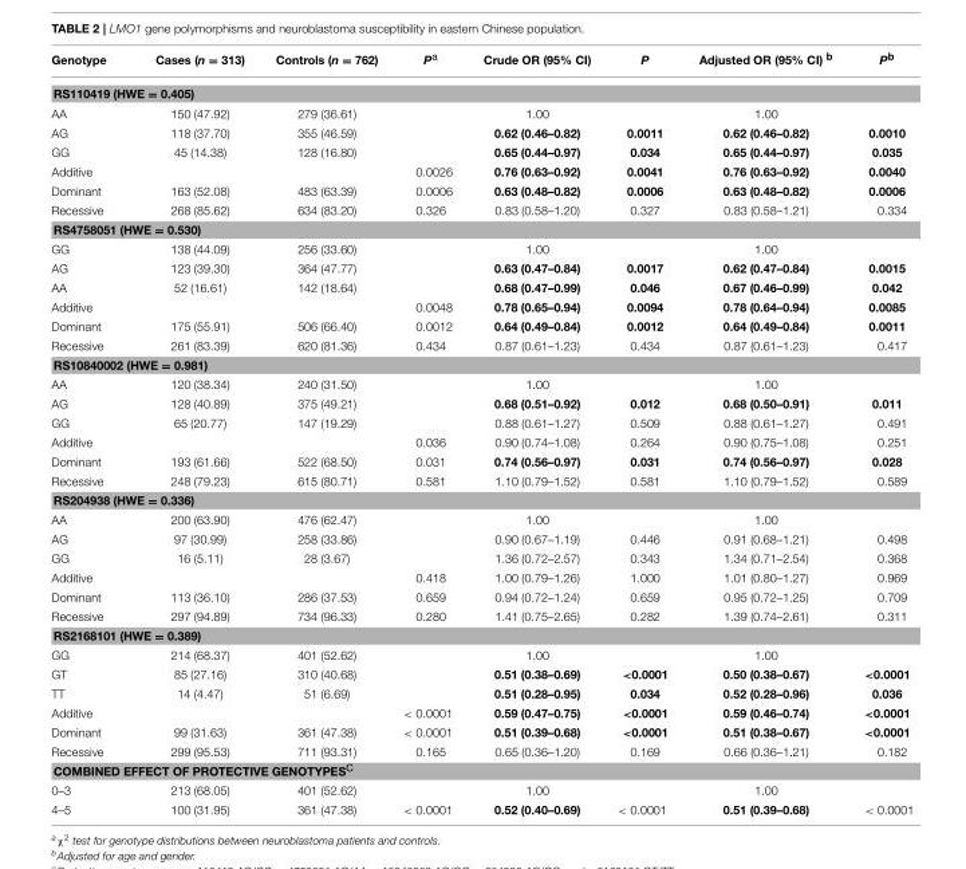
<table><thead><tr><td>Genotype</td><td>Cases (n = 313)</td><td>Controls (n = 762)</td><td>P<sup>a</sup></td><td>Crude OR (95% CI)</td><td>P</td><td>Adjusted OR (95% CI) <sup>b</sup></td><td>P<sup>b</sup></td></tr></thead><tbody><tr><td colspan="8">RS110419 (HWE = 0.405)</td></tr><tr><td>AA</td><td>150 (47.92)</td><td>279 (36.61)</td><td></td><td>1.00</td><td></td><td>1.00</td><td></td></tr><tr><td>AG</td><td>118 (37.70)</td><td>355 (46.59)</td><td></td><td>0.62 (0.46–0.82)</td><td>0.0011</td><td>0.62 (0.46–0.82)</td><td>0.0010</td></tr><tr><td>GG</td><td>45 (14.38)</td><td>128 (16.80)</td><td></td><td>0.65 (0.44–0.97)</td><td>0.034</td><td>0.65 (0.44–0.97)</td><td>0.035</td></tr><tr><td>Additive</td><td></td><td></td><td>0.0026</td><td>0.76 (0.63–0.92)</td><td>0.0041</td><td>0.76 (0.63–0.92)</td><td>0.0040</td></tr><tr><td>Dominant</td><td>163 (52.08)</td><td>483 (63.39)</td><td>0.0006</td><td>0.63 (0.48–0.82)</td><td>0.0006</td><td>0.63 (0.48–0.82)</td><td>0.0006</td></tr><tr><td>Recessive</td><td>268 (85.62)</td><td>634 (83.20)</td><td>0.326</td><td>0.83 (0.58–1.20)</td><td>0.327</td><td>0.83 (0.58–1.21)</td><td>0.334</td></tr><tr><td colspan="8">RS4758051 (HWE = 0.530)</td></tr><tr><td>GG</td><td>138 (44.09)</td><td>256 (33.60)</td><td></td><td>1.00</td><td></td><td>1.00</td><td></td></tr><tr><td>AG</td><td>123 (39.30)</td><td>364 (47.77)</td><td></td><td>0.63 (0.47–0.84)</td><td>0.0017</td><td>0.62 (0.47–0.84)</td><td>0.0015</td></tr><tr><td>AA</td><td>52 (16.61)</td><td>142 (18.64)</td><td></td><td>0.68 (0.47–0.99)</td><td>0.046</td><td>0.67 (0.46–0.99)</td><td>0.042</td></tr><tr><td>Additive</td><td></td><td></td><td>0.0048</td><td>0.78 (0.65–0.94)</td><td>0.0094</td><td>0.78 (0.64–0.94)</td><td>0.0085</td></tr><tr><td>Dominant</td><td>175 (55.91)</td><td>506 (66.40)</td><td>0.0012</td><td>0.64 (0.49–0.84)</td><td>0.0012</td><td>0.64 (0.49–0.84)</td><td>0.0011</td></tr><tr><td>Recessive</td><td>261 (83.39)</td><td>620 (81.36)</td><td>0.434</td><td>0.87 (0.61–1.23)</td><td>0.434</td><td>0.87 (0.61–1.23)</td><td>0.417</td></tr><tr><td colspan="8">RS10840002 (HWE = 0.981)</td></tr><tr><td>AA</td><td>120 (38.34)</td><td>240 (31.50)</td><td></td><td>1.00</td><td></td><td>1.00</td><td></td></tr><tr><td>AG</td><td>128 (40.89)</td><td>375 (49.21)</td><td></td><td>0.68 (0.51–0.92)</td><td>0.012</td><td>0.68 (0.50–0.91)</td><td>0.011</td></tr><tr><td>GG</td><td>65 (20.77)</td><td>147 (19.29)</td><td></td><td>0.88 (0.61–1.27)</td><td>0.509</td><td>0.88 (0.61–1.27)</td><td>0.491</td></tr><tr><td>Additive</td><td></td><td></td><td>0.036</td><td>0.90 (0.74–1.08)</td><td>0.264</td><td>0.90 (0.75–1.08)</td><td>0.251</td></tr><tr><td>Dominant</td><td>193 (61.66)</td><td>522 (68.50)</td><td>0.031</td><td>0.74 (0.56–0.97)</td><td>0.031</td><td>0.74 (0.56–0.97)</td><td>0.028</td></tr><tr><td>Recessive</td><td>248 (79.23)</td><td>615 (80.71)</td><td>0.581</td><td>1.10 (0.79–1.52)</td><td>0.581</td><td>1.10 (0.79–1.52)</td><td>0.589</td></tr><tr><td colspan="8">RS204938 (HWE = 0.336)</td></tr><tr><td>AA</td><td>200 (63.90)</td><td>476 (62.47)</td><td></td><td>1.00</td><td></td><td>1.00</td><td></td></tr><tr><td>AG</td><td>97 (30.99)</td><td>258 (33.86)</td><td></td><td>0.90 (0.67–1.19)</td><td>0.446</td><td>0.91 (0.68–1.21)</td><td>0.498</td></tr><tr><td>GG</td><td>16 (5.11)</td><td>28 (3.67)</td><td></td><td>1.36 (0.72–2.57)</td><td>0.343</td><td>1.34 (0.71–2.54)</td><td>0.368</td></tr><tr><td>Additive</td><td></td><td></td><td>0.418</td><td>1.00 (0.79–1.26)</td><td>1.000</td><td>1.01 (0.80–1.27)</td><td>0.969</td></tr><tr><td>Dominant</td><td>113 (36.10)</td><td>286 (37.53)</td><td>0.659</td><td>0.94 (0.72–1.24)</td><td>0.659</td><td>0.95 (0.72–1.25)</td><td>0.709</td></tr><tr><td>Recessive</td><td>297 (94.89)</td><td>734 (96.33)</td><td>0.280</td><td>1.41 (0.75–2.65)</td><td>0.282</td><td>1.39 (0.74–2.61)</td><td>0.311</td></tr><tr><td colspan="8">RS2168101 (HWE = 0.389)</td></tr><tr><td>GG</td><td>214 (68.37)</td><td>401 (52.62)</td><td></td><td>1.00</td><td></td><td>1.00</td><td></td></tr><tr><td>GT</td><td>85 (27.16)</td><td>310 (40.68)</td><td></td><td>0.51 (0.38–0.69)</td><td>&lt;0.0001</td><td>0.50 (0.38–0.67)</td><td>&lt;0.0001</td></tr><tr><td>TT</td><td>14 (4.47)</td><td>51 (6.69)</td><td></td><td>0.51 (0.28–0.95)</td><td>0.034</td><td>0.52 (0.28–0.96)</td><td>0.036</td></tr><tr><td>Additive</td><td></td><td></td><td>&lt; 0.0001</td><td>0.59 (0.47–0.75)</td><td>&lt;0.0001</td><td>0.59 (0.46–0.74)</td><td>&lt;0.0001</td></tr><tr><td>Dominant</td><td>99 (31.63)</td><td>361 (47.38)</td><td>&lt; 0.0001</td><td>0.51 (0.39–0.68)</td><td>&lt;0.0001</td><td>0.51 (0.38–0.67)</td><td>&lt;0.0001</td></tr><tr><td>Recessive</td><td>299 (95.53)</td><td>711 (93.31)</td><td>0.165</td><td>0.65 (0.36–1.20)</td><td>0.169</td><td>0.66 (0.36–1.21)</td><td>0.182</td></tr><tr><td colspan="8">COMBINED EFFECT OF PROTECTIVE GENOTYPES<sup>C</sup></td></tr><tr><td>0–3</td><td>213 (68.05)</td><td>401 (52.62)</td><td></td><td>1.00</td><td></td><td>1.00</td><td></td></tr><tr><td>4–5</td><td>100 (31.95)</td><td>361 (47.38)</td><td>&lt; 0.0001</td><td>0.52 (0.40–0.69)</td><td>&lt; 0.0001</td><td>0.51 (0.39–0.68)</td><td>&lt; 0.0001</td></tr></tbody></table>